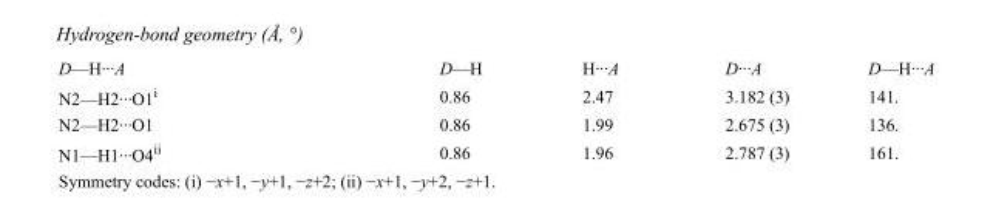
<table><tbody><tr><td>D—H···A</td><td>D—H</td><td>H···A</td><td>D···A</td><td>D—H···A</td></tr><tr><td>N2—H2···O1<sup>i</sup></td><td>0.86</td><td>2.47</td><td>3.182 (3)</td><td>141.</td></tr><tr><td>N2—H2···O1</td><td>0.86</td><td>1.99</td><td>2.675 (3)</td><td>136.</td></tr><tr><td>N1—H1···O4<sup>ii</sup></td><td>0.86</td><td>1.96</td><td>2.787 (3)</td><td>161.</td></tr></tbody></table>